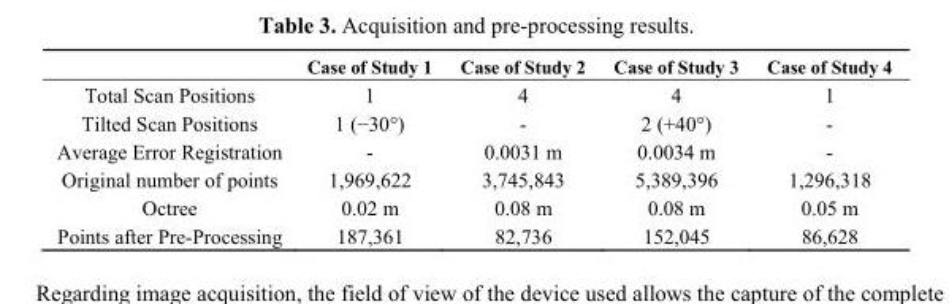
<table><thead><tr><td></td><td>Case of Study 1</td><td>Case of Study 2</td><td>Case of Study 3</td><td>Case of Study 4</td></tr></thead><tbody><tr><td>Total Scan Positions</td><td>1</td><td>4</td><td>4</td><td>1</td></tr><tr><td>Tilted Scan Positions</td><td>1 (−30°)</td><td>-</td><td>2 (+40°)</td><td>-</td></tr><tr><td>Average Error Registration</td><td>-</td><td>0.0031 m</td><td>0.0034 m</td><td>-</td></tr><tr><td>Original number of points</td><td>1,969,622</td><td>3,745,843</td><td>5,389,396</td><td>1,296,318</td></tr><tr><td>Octree</td><td>0.02 m</td><td>0.08 m</td><td>0.08 m</td><td>0.05 m</td></tr><tr><td>Points after Pre-Processing</td><td>187,361</td><td>82,736</td><td>152,045</td><td>86,628</td></tr></tbody></table>